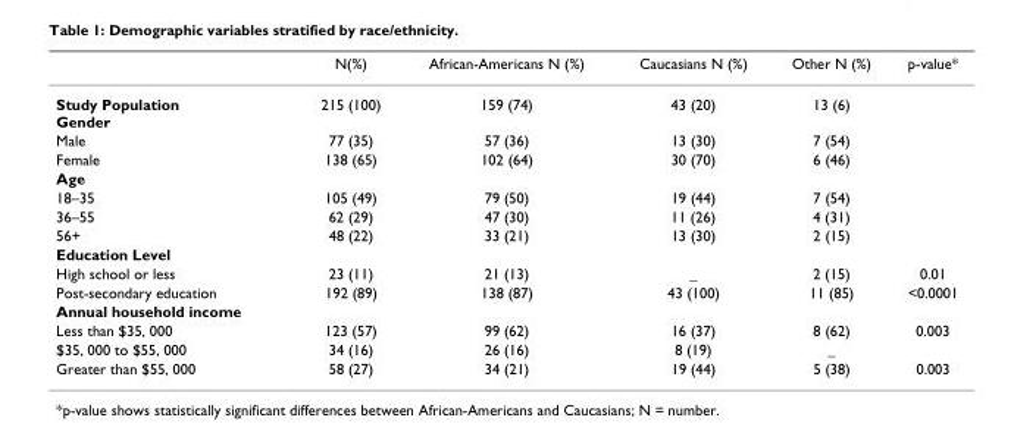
<table><thead><tr><td></td><td>N(%)</td><td>African-Americans N (%)</td><td>Caucasians N (%)</td><td>Other N (%)</td><td>p-value*</td></tr></thead><tbody><tr><td>Study Population Gender</td><td>215 (100)</td><td>159 (74)</td><td>43 (20)</td><td>13 (6)</td><td></td></tr><tr><td>Male</td><td>77 (35)</td><td>57 (36)</td><td>13 (30)</td><td>7 (54)</td><td></td></tr><tr><td>Female</td><td>138 (65)</td><td>102 (64)</td><td>30 (70)</td><td>6 (46)</td><td></td></tr><tr><td colspan="6">Age</td></tr><tr><td>18–35</td><td>105 (49)</td><td>79 (50)</td><td>19 (44)</td><td>7 (54)</td><td></td></tr><tr><td>36–55</td><td>62 (29)</td><td>47 (30)</td><td>11 (26)</td><td>4 (31)</td><td></td></tr><tr><td>56+</td><td>48 (22)</td><td>33 (21)</td><td>13 (30)</td><td>2 (15)</td><td></td></tr><tr><td colspan="6">Education Level</td></tr><tr><td>High school or less</td><td>23 (11)</td><td>21 (13)</td><td>_</td><td>2 (15)</td><td>0.01</td></tr><tr><td>Post-secondary education</td><td>192 (89)</td><td>138 (87)</td><td>43 (100)</td><td>11 (85)</td><td>&lt;0.0001</td></tr><tr><td colspan="6">Annual household income</td></tr><tr><td>Less than $35, 000</td><td>123 (57)</td><td>99 (62)</td><td>16 (37)</td><td>8 (62)</td><td>0.003</td></tr><tr><td>$35, 000 to $55, 000</td><td>34 (16)</td><td>26 (16)</td><td>8 (19)</td><td>_</td><td></td></tr><tr><td>Greater than $55, 000</td><td>58 (27)</td><td>34 (21)</td><td>19 (44)</td><td>5 (38)</td><td>0.003</td></tr></tbody></table>